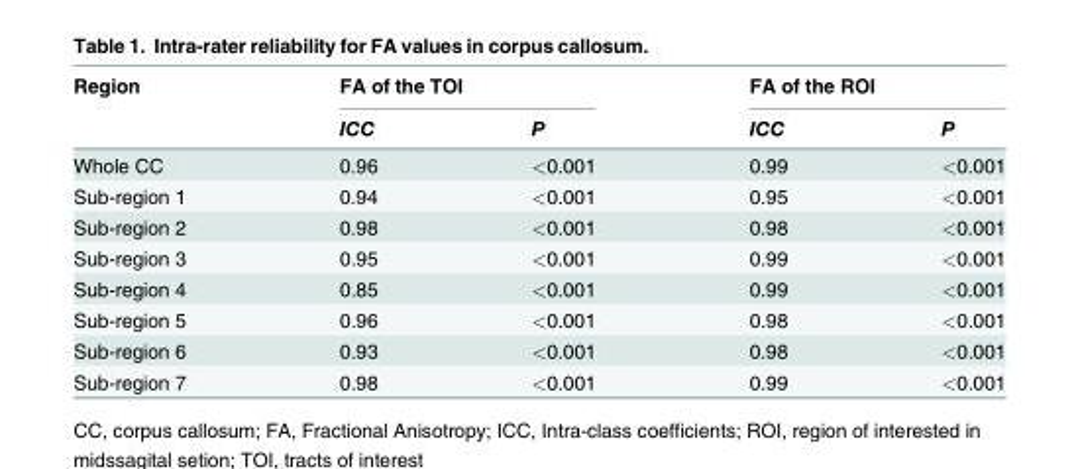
<table><thead><tr><td rowspan="2">Region</td><td colspan="2">FA of the TOI</td><td colspan="2">FA of the ROI</td></tr><tr><td>ICC</td><td>P</td><td>ICC</td><td>P</td></tr></thead><tbody><tr><td>Whole CC</td><td>0.96</td><td>&lt;0.001</td><td>0.99</td><td>&lt;0.001</td></tr><tr><td>Sub-region 1</td><td>0.94</td><td>&lt;0.001</td><td>0.95</td><td>&lt;0.001</td></tr><tr><td>Sub-region 2</td><td>0.98</td><td>&lt;0.001</td><td>0.98</td><td>&lt;0.001</td></tr><tr><td>Sub-region 3</td><td>0.95</td><td>&lt;0.001</td><td>0.99</td><td>&lt;0.001</td></tr><tr><td>Sub-region 4</td><td>0.85</td><td>&lt;0.001</td><td>0.99</td><td>&lt;0.001</td></tr><tr><td>Sub-region 5</td><td>0.96</td><td>&lt;0.001</td><td>0.98</td><td>&lt;0.001</td></tr><tr><td>Sub-region 6</td><td>0.93</td><td>&lt;0.001</td><td>0.98</td><td>&lt;0.001</td></tr><tr><td>Sub-region 7</td><td>0.98</td><td>&lt;0.001</td><td>0.99</td><td>&lt;0.001</td></tr></tbody></table>